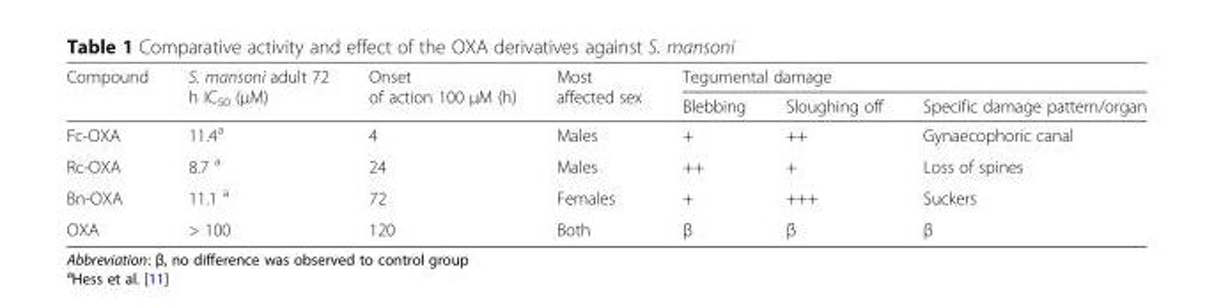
<table><thead><tr><td rowspan="2">Compound</td><td rowspan="2">S. mansoni adult 72 h IC<sub>50</sub> (μM)</td><td rowspan="2">Onset of action 100 μM (h)</td><td rowspan="2">Most affected sex</td><td colspan="3">Tegumental damage</td></tr><tr><td>Blebbing</td><td>Sloughing off</td><td>Specific damage pattern/organ</td></tr></thead><tbody><tr><td>Fc-OXA</td><td>11.4<sup>a</sup></td><td>4</td><td>Males</td><td>+</td><td>++</td><td>Gynaecophoric canal</td></tr><tr><td>Rc-OXA</td><td>8.7 <sup>a</sup></td><td>24</td><td>Males</td><td>++</td><td>+</td><td>Loss of spines</td></tr><tr><td>Bn-OXA</td><td>11.1 <sup>a</sup></td><td>72</td><td>Females</td><td>+</td><td>+++</td><td>Suckers</td></tr><tr><td>OXA</td><td>&gt; 100</td><td>120</td><td>Both</td><td>β</td><td>β</td><td>β</td></tr></tbody></table>